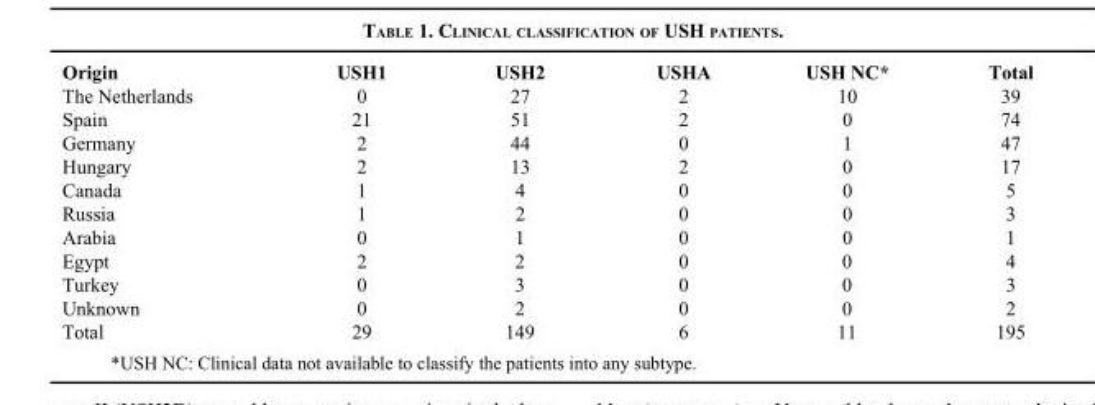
<table><thead><tr><td>Origin</td><td>USH1</td><td>USH2</td><td>USHA</td><td>USH NC*</td><td>Total</td></tr></thead><tbody><tr><td>The Netherlands</td><td>0</td><td>27</td><td>2</td><td>10</td><td>39</td></tr><tr><td>Spain</td><td>21</td><td>51</td><td>2</td><td>0</td><td>74</td></tr><tr><td>Germany</td><td>2</td><td>44</td><td>0</td><td>1</td><td>47</td></tr><tr><td>Hungary</td><td>2</td><td>13</td><td>2</td><td>0</td><td>17</td></tr><tr><td>Canada</td><td>1</td><td>4</td><td>0</td><td>0</td><td>5</td></tr><tr><td>Russia</td><td>1</td><td>2</td><td>0</td><td>0</td><td>3</td></tr><tr><td>Arabia</td><td>0</td><td>1</td><td>0</td><td>0</td><td>1</td></tr><tr><td>Egypt</td><td>2</td><td>2</td><td>0</td><td>0</td><td>4</td></tr><tr><td>Turkey</td><td>0</td><td>3</td><td>0</td><td>0</td><td>3</td></tr><tr><td>Unknown</td><td>0</td><td>2</td><td>0</td><td>0</td><td>2</td></tr><tr><td>Total</td><td>29</td><td>149</td><td>6</td><td>11</td><td>195</td></tr></tbody></table>